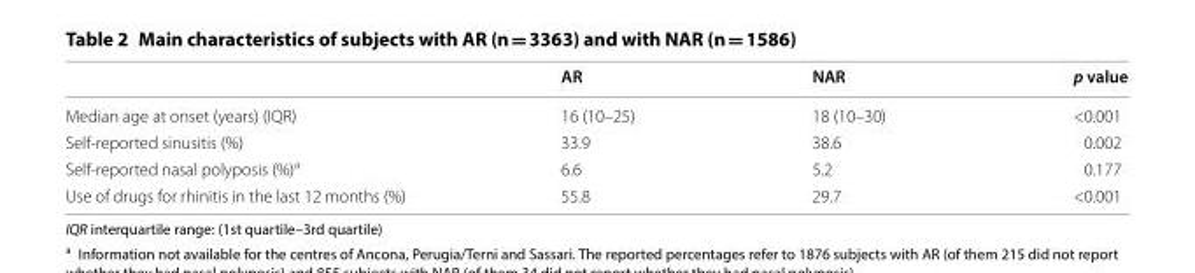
<table><thead><tr><td></td><td>AR</td><td>NAR</td><td>p value</td></tr></thead><tbody><tr><td>Median age at onset (years) (IQR)</td><td>16 (10–25)</td><td>18 (10–30)</td><td>&lt;0.001</td></tr><tr><td>Self-reported sinusitis (%)</td><td>33.9</td><td>38.6</td><td>0.002</td></tr><tr><td>Self-reported nasal polyposis (%)<sup>a</sup></td><td>6.6</td><td>5.2</td><td>0.177</td></tr><tr><td>Use of drugs for rhinitis in the last 12 months (%)</td><td>55.8</td><td>29.7</td><td>&lt;0.001</td></tr></tbody></table>